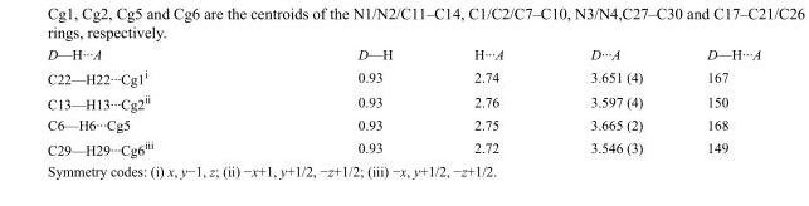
<table><tbody><tr><td>D—H···A</td><td>D—H</td><td>H···A</td><td>D···A</td><td>D—H···A</td></tr><tr><td>C22—H22···Cg1<sup>i</sup></td><td>0.93</td><td>2.74</td><td>3.651 (4)</td><td>167</td></tr><tr><td>C13—H13···Cg2<sup>ii</sup></td><td>0.93</td><td>2.76</td><td>3.597 (4)</td><td>150</td></tr><tr><td>C6—H6···Cg5</td><td>0.93</td><td>2.75</td><td>3.665 (2)</td><td>168</td></tr><tr><td>C29—H29···Cg6<sup>iii</sup></td><td>0.93</td><td>2.72</td><td>3.546 (3)</td><td>149</td></tr></tbody></table>